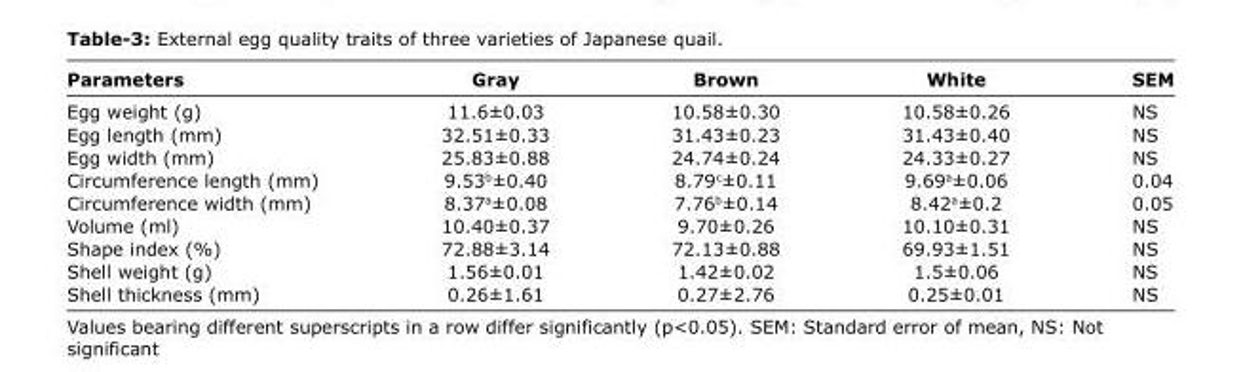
<table><thead><tr><td>Parameters</td><td>Gray</td><td>Brown</td><td>White</td><td>SEM</td></tr></thead><tbody><tr><td>Egg weight (g)</td><td>11.6±0.03</td><td>10.58±0.30</td><td>10.58±0.26</td><td>NS</td></tr><tr><td>Egg length (mm)</td><td>32.51±0.33</td><td>31.43±0.23</td><td>31.43±0.40</td><td>NS</td></tr><tr><td>Egg width (mm)</td><td>25.83±0.88</td><td>24.74±0.24</td><td>24.33±0.27</td><td>NS</td></tr><tr><td>Circumference length (mm)</td><td>9.53<sup>b</sup>±0.40</td><td>8.79<sup>c</sup>±0.11</td><td>9.69<sup>a</sup>±0.06</td><td>0.04</td></tr><tr><td>Circumference width (mm)</td><td>8.37<sup>a</sup>±0.08</td><td>7.76<sup>b</sup>±0.14</td><td>8.42<sup>a</sup>±0.2</td><td>0.05</td></tr><tr><td>Volume (ml)</td><td>10.40±0.37</td><td>9.70±0.26</td><td>10.10±0.31</td><td>NS</td></tr><tr><td>Shape index (%)</td><td>72.88±3.14</td><td>72.13±0.88</td><td>69.93±1.51</td><td>NS</td></tr><tr><td>Shell weight (g)</td><td>1.56±0.01</td><td>1.42±0.02</td><td>1.5±0.06</td><td>NS</td></tr><tr><td>Shell thickness (mm)</td><td>0.26±1.61</td><td>0.27±2.76</td><td>0.25±0.01</td><td>NS</td></tr></tbody></table>